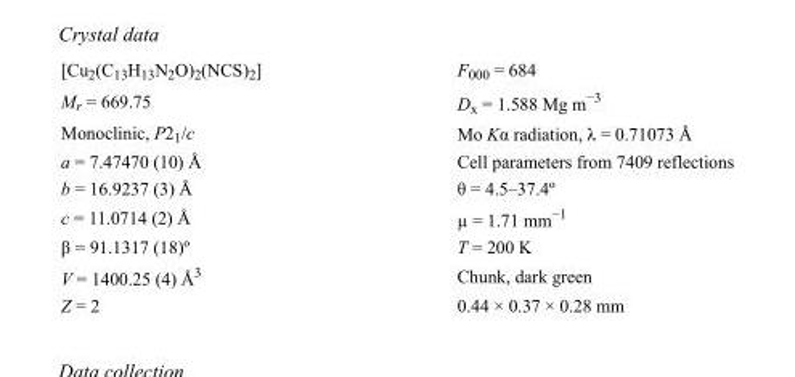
<table><tbody><tr><td>[Cu<sub>2</sub>(C<sub>13</sub>H<sub>13</sub>N<sub>2</sub>O)<sub>2</sub>(NCS)<sub>2</sub>]</td><td>F000 = 684</td></tr><tr><td>M<sub>r</sub> = 669.75</td><td>D<sub>x</sub> = 1.588 Mg m<sup>−3</sup></td></tr><tr><td>Monoclinic, P2<sub>1</sub>/c</td><td>Mo Kα radiation, λ = 0.71073 Å</td></tr><tr><td>a = 7.47470 (10) Å</td><td>Cell parameters from 7409 reflections</td></tr><tr><td>b = 16.9237 (3) Å</td><td>θ = 4.5–37.4º</td></tr><tr><td>c = 11.0714 (2) Å</td><td>µ = 1.71 mm<sup>−1</sup></td></tr><tr><td>β = 91.1317 (18)º</td><td>T = 200 K</td></tr><tr><td>V = 1400.25 (4) Å<sup>3</sup></td><td>Chunk, dark green</td></tr><tr><td>Z = 2</td><td>0.44 × 0.37 × 0.28 mm</td></tr></tbody></table>